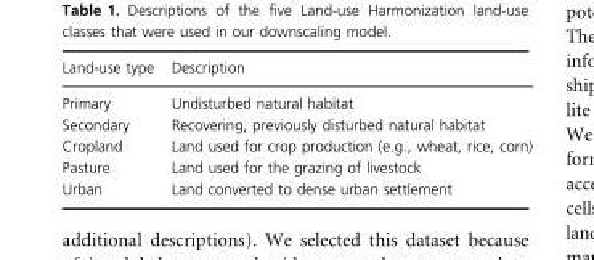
<table><thead><tr><td>Land-use type</td><td>Description</td></tr></thead><tbody><tr><td>Primary</td><td>Undisturbed natural habitat</td></tr><tr><td>Secondary</td><td>Recovering, previously disturbed natural habitat</td></tr><tr><td>Cropland</td><td>Land used for crop production (e.g., wheat, rice, corn)</td></tr><tr><td>Pasture</td><td>Land used for the grazing of livestock</td></tr><tr><td>Urban</td><td>Land converted to dense urban settlement</td></tr></tbody></table>